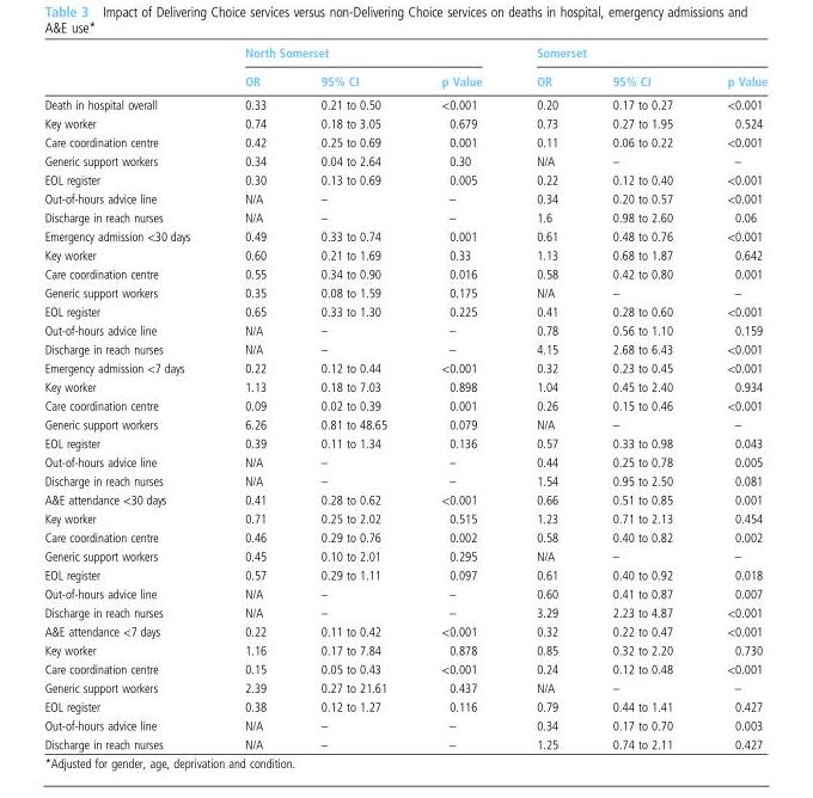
<table><thead><tr><td rowspan="2"></td><td colspan="3">North Somerset</td><td colspan="3">Somerset</td></tr><tr><td>OR</td><td>95% CI</td><td>p Value</td><td>OR</td><td>95% CI</td><td>p Value</td></tr></thead><tbody><tr><td>Death in hospital overall</td><td>0.33</td><td>0.21 to 0.50</td><td>&lt;0.001</td><td>0.20</td><td>0.17 to 0.27</td><td>&lt;0.001</td></tr><tr><td>Key worker</td><td>0.74</td><td>0.18 to 3.05</td><td>0.679</td><td>0.73</td><td>0.27 to 1.95</td><td>0.524</td></tr><tr><td>Care coordination centre</td><td>0.42</td><td>0.25 to 0.69</td><td>0.001</td><td>0.11</td><td>0.06 to 0.22</td><td>&lt;0.001</td></tr><tr><td>Generic support workers</td><td>0.34</td><td>0.04 to 2.64</td><td>0.30</td><td>N/A</td><td>–</td><td>–</td></tr><tr><td>EOL register</td><td>0.30</td><td>0.13 to 0.69</td><td>0.005</td><td>0.22</td><td>0.12 to 0.40</td><td>&lt;0.001</td></tr><tr><td>Out-of-hours advice line</td><td>N/A</td><td>–</td><td>–</td><td>0.34</td><td>0.20 to 0.57</td><td>&lt;0.001</td></tr><tr><td>Discharge in reach nurses</td><td>N/A</td><td>–</td><td>–</td><td>1.6</td><td>0.98 to 2.60</td><td>0.06</td></tr><tr><td>Emergency admission &lt;30 days</td><td>0.49</td><td>0.33 to 0.74</td><td>0.001</td><td>0.61</td><td>0.48 to 0.76</td><td>&lt;0.001</td></tr><tr><td>Key worker</td><td>0.60</td><td>0.21 to 1.69</td><td>0.33</td><td>1.13</td><td>0.68 to 1.87</td><td>0.642</td></tr><tr><td>Care coordination centre</td><td>0.55</td><td>0.34 to 0.90</td><td>0.016</td><td>0.58</td><td>0.42 to 0.80</td><td>0.001</td></tr><tr><td>Generic support workers</td><td>0.35</td><td>0.08 to 1.59</td><td>0.175</td><td>N/A</td><td>–</td><td>–</td></tr><tr><td>EOL register</td><td>0.65</td><td>0.33 to 1.30</td><td>0.225</td><td>0.41</td><td>0.28 to 0.60</td><td>&lt;0.001</td></tr><tr><td>Out-of-hours advice line</td><td>N/A</td><td>–</td><td>–</td><td>0.78</td><td>0.56 to 1.10</td><td>0.159</td></tr><tr><td>Discharge in reach nurses</td><td>N/A</td><td>–</td><td>–</td><td>4.15</td><td>2.68 to 6.43</td><td>&lt;0.001</td></tr><tr><td>Emergency admission &lt;7 days</td><td>0.22</td><td>0.12 to 0.44</td><td>&lt;0.001</td><td>0.32</td><td>0.23 to 0.45</td><td>&lt;0.001</td></tr><tr><td>Key worker</td><td>1.13</td><td>0.18 to 7.03</td><td>0.898</td><td>1.04</td><td>0.45 to 2.40</td><td>0.934</td></tr><tr><td>Care coordination centre</td><td>0.09</td><td>0.02 to 0.39</td><td>0.001</td><td>0.26</td><td>0.15 to 0.46</td><td>&lt;0.001</td></tr><tr><td>Generic support workers</td><td>6.26</td><td>0.81 to 48.65</td><td>0.079</td><td>N/A</td><td>–</td><td>–</td></tr><tr><td>EOL register</td><td>0.39</td><td>0.11 to 1.34</td><td>0.136</td><td>0.57</td><td>0.33 to 0.98</td><td>0.043</td></tr><tr><td>Out-of-hours advice line</td><td>N/A</td><td>–</td><td>–</td><td>0.44</td><td>0.25 to 0.78</td><td>0.005</td></tr><tr><td>Discharge in reach nurses</td><td>N/A</td><td>–</td><td>–</td><td>1.54</td><td>0.95 to 2.50</td><td>0.081</td></tr><tr><td>A&amp;E attendance &lt;30 days</td><td>0.41</td><td>0.28 to 0.62</td><td>&lt;0.001</td><td>0.66</td><td>0.51 to 0.85</td><td>0.001</td></tr><tr><td>Key worker</td><td>0.71</td><td>0.25 to 2.02</td><td>0.515</td><td>1.23</td><td>0.71 to 2.13</td><td>0.454</td></tr><tr><td>Care coordination centre</td><td>0.46</td><td>0.29 to 0.76</td><td>0.002</td><td>0.58</td><td>0.40 to 0.82</td><td>0.002</td></tr><tr><td>Generic support workers</td><td>0.45</td><td>0.10 to 2.01</td><td>0.295</td><td>N/A</td><td>–</td><td>–</td></tr><tr><td>EOL register</td><td>0.57</td><td>0.29 to 1.11</td><td>0.097</td><td>0.61</td><td>0.40 to 0.92</td><td>0.018</td></tr><tr><td>Out-of-hours advice line</td><td>N/A</td><td>–</td><td>–</td><td>0.60</td><td>0.41 to 0.87</td><td>0.007</td></tr><tr><td>Discharge in reach nurses</td><td>N/A</td><td>–</td><td>–</td><td>3.29</td><td>2.23 to 4.87</td><td>&lt;0.001</td></tr><tr><td>A&amp;E attendance &lt;7 days</td><td>0.22</td><td>0.11 to 0.42</td><td>&lt;0.001</td><td>0.32</td><td>0.22 to 0.47</td><td>&lt;0.001</td></tr><tr><td>Key worker</td><td>1.16</td><td>0.17 to 7.84</td><td>0.878</td><td>0.85</td><td>0.32 to 2.20</td><td>0.730</td></tr><tr><td>Care coordination centre</td><td>0.15</td><td>0.05 to 0.43</td><td>&lt;0.001</td><td>0.24</td><td>0.12 to 0.48</td><td>&lt;0.001</td></tr><tr><td>Generic support workers</td><td>2.39</td><td>0.27 to 21.61</td><td>0.437</td><td>N/A</td><td>–</td><td>–</td></tr><tr><td>EOL register</td><td>0.38</td><td>0.12 to 1.27</td><td>0.116</td><td>0.79</td><td>0.44 to 1.41</td><td>0.427</td></tr><tr><td>Out-of-hours advice line</td><td>N/A</td><td>–</td><td>–</td><td>0.34</td><td>0.17 to 0.70</td><td>0.003</td></tr><tr><td>Discharge in reach nurses</td><td>N/A</td><td>–</td><td>–</td><td>1.25</td><td>0.74 to 2.11</td><td>0.427</td></tr></tbody></table>